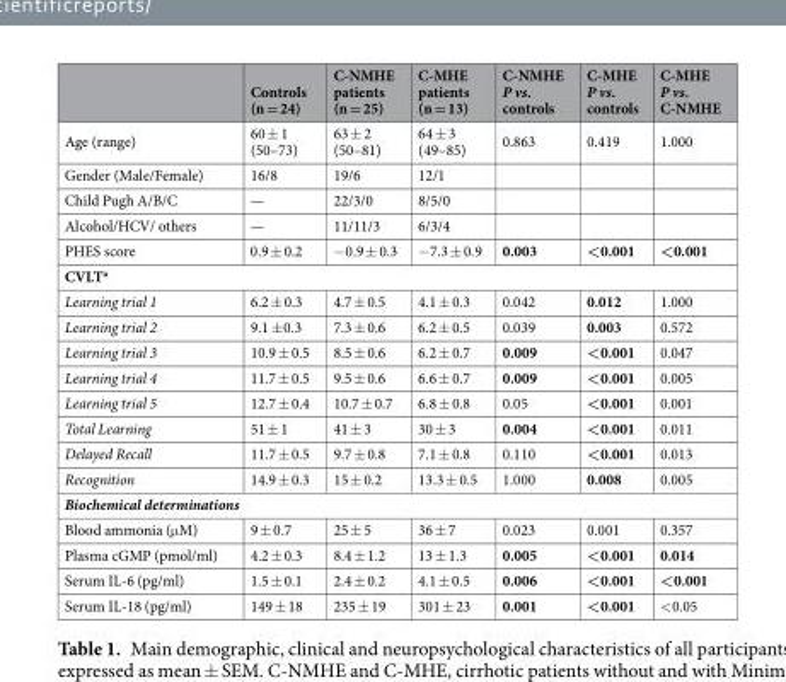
<table><thead><tr><td></td><td>Controls (n = 24)</td><td>C-NMHE patients (n = 25)</td><td>C-MHE patients (n = 13)</td><td>C-NMHE P vs. controls</td><td>C-MHE P vs. controls</td><td>C-MHE P vs. C-NMHE</td></tr></thead><tbody><tr><td>Age (range)</td><td>60 ± 1 (50–73)</td><td>63 ± 2 (50–81)</td><td>64 ± 3 (49–85)</td><td>0.863</td><td>0.419</td><td>1.000</td></tr><tr><td>Gender (Male/Female)</td><td>16/8</td><td>19/6</td><td>12/1</td><td></td><td></td><td></td></tr><tr><td>Child Pugh A/B/C</td><td>—</td><td>22/3/0</td><td>8/5/0</td><td></td><td></td><td></td></tr><tr><td>Alcohol/HCV/ others</td><td>—</td><td>11/11/3</td><td>6/3/4</td><td></td><td></td><td></td></tr><tr><td>PHES score</td><td>0.9 ± 0.2</td><td>−0.9 ± 0.3</td><td>−7.3 ± 0.9</td><td>0.003</td><td>&lt;0.001</td><td>&lt;0.001</td></tr><tr><td colspan="7">CVLT<sup>a</sup></td></tr><tr><td>Learning trial 1</td><td>6.2 ± 0.3</td><td>4.7 ± 0.5</td><td>4.1 ± 0.3</td><td>0.042</td><td>0.012</td><td>1.000</td></tr><tr><td>Learning trial 2</td><td>9.1 ±0.3</td><td>7.3 ± 0.6</td><td>6.2 ± 0.5</td><td>0.039</td><td>0.003</td><td>0.572</td></tr><tr><td>Learning trial 3</td><td>10.9 ± 0.5</td><td>8.5 ± 0.6</td><td>6.2 ± 0.7</td><td>0.009</td><td>&lt;0.001</td><td>0.047</td></tr><tr><td>Learning trial 4</td><td>11.7 ± 0.5</td><td>9.5 ± 0.6</td><td>6.6 ± 0.7</td><td>0.009</td><td>&lt;0.001</td><td>0.005</td></tr><tr><td>Learning trial 5</td><td>12.7 ± 0.4</td><td>10.7 ± 0.7</td><td>6.8 ± 0.8</td><td>0.05</td><td>&lt;0.001</td><td>0.001</td></tr><tr><td>Total Learning</td><td>51 ± 1</td><td>41 ± 3</td><td>30 ± 3</td><td>0.004</td><td>&lt;0.001</td><td>0.011</td></tr><tr><td>Delayed Recall</td><td>11.7 ± 0.5</td><td>9.7 ± 0.8</td><td>7.1 ± 0.8</td><td>0.110</td><td>&lt;0.001</td><td>0.013</td></tr><tr><td>Recognition</td><td>14.9 ± 0.3</td><td>15 ± 0.2</td><td>13.3 ± 0.5</td><td>1.000</td><td>0.008</td><td>0.005</td></tr><tr><td colspan="7">Biochemical determinations</td></tr><tr><td>Blood ammonia (μM)</td><td>9 ± 0.7</td><td>25 ± 5</td><td>36 ± 7</td><td>0.023</td><td>0.001</td><td>0.357</td></tr><tr><td>Plasma cGMP (pmol/ml)</td><td>4.2 ± 0.3</td><td>8.4 ± 1.2</td><td>13 ± 1.3</td><td>0.005</td><td>&lt;0.001</td><td>0.014</td></tr><tr><td>Serum IL-6 (pg/ml)</td><td>1.5 ± 0.1</td><td>2.4 ± 0.2</td><td>4.1 ± 0.5</td><td>0.006</td><td>&lt;0.001</td><td>&lt;0.001</td></tr><tr><td>Serum IL-18 (pg/ml)</td><td>149 ± 18</td><td>235 ± 19</td><td>301 ± 23</td><td>0.001</td><td>&lt;0.001</td><td>&lt;0.05</td></tr></tbody></table>